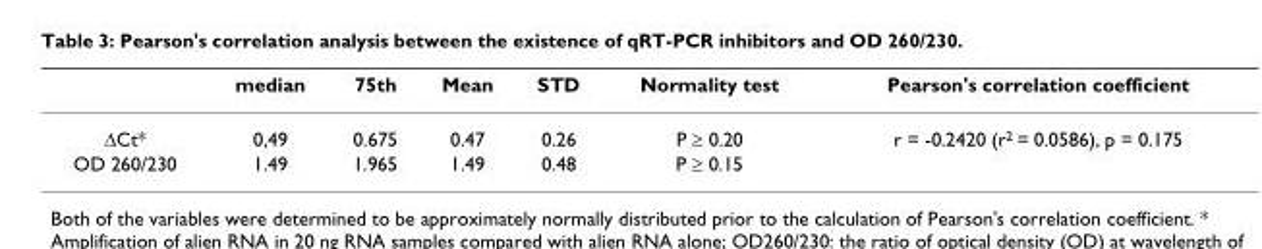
<table><thead><tr><td></td><td>median</td><td>75th</td><td>Mean</td><td>STD</td><td>Normality test</td><td>Pearson&#x27;s correlation coefficient</td></tr></thead><tbody><tr><td>ΔCt*</td><td>0,49</td><td>0.675</td><td>0.47</td><td>0.26</td><td>P ≥ 0.20</td><td>r = -0.2420 (r<sup>2</sup> = 0.0586), p = 0.175</td></tr><tr><td>OD 260/230</td><td>1.49</td><td>1.965</td><td>1.49</td><td>0.48</td><td>P ≥ 0.15</td><td></td></tr></tbody></table>